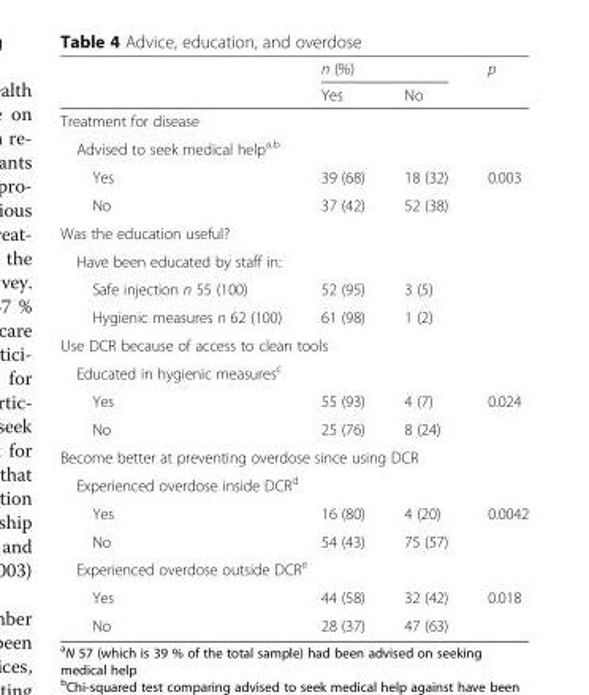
<table><thead><tr><td rowspan="2"></td><td colspan="2">n (%)</td><td rowspan="2">p</td></tr><tr><td>Yes</td><td>No</td></tr></thead><tbody><tr><td colspan="4">Treatment for disease</td></tr><tr><td colspan="4">Advised to seek medical help<sup>a,b</sup></td></tr><tr><td>Yes</td><td>39 (68)</td><td>18 (32)</td><td>0.003</td></tr><tr><td>No</td><td>37 (42)</td><td>52 (38)</td><td></td></tr><tr><td colspan="4">Was the education useful?</td></tr><tr><td colspan="4">Have been educated by staff in:</td></tr><tr><td>Safe injection n 55 (100)</td><td>52 (95)</td><td>3 (5)</td><td></td></tr><tr><td>Hygienic measures n 62 (100)</td><td>61 (98)</td><td>1 (2)</td><td></td></tr><tr><td colspan="4">Use DCR because of access to clean tools</td></tr><tr><td colspan="4">Educated in hygienic measures<sup>c</sup></td></tr><tr><td>Yes</td><td>55 (93)</td><td>4 (7)</td><td>0.024</td></tr><tr><td>No</td><td>25 (76)</td><td>8 (24)</td><td></td></tr><tr><td colspan="4">Become better at preventing overdose since using DCR</td></tr><tr><td colspan="4">Experienced overdose inside DCR<sup>d</sup></td></tr><tr><td>Yes</td><td>16 (80)</td><td>4 (20)</td><td>0.0042</td></tr><tr><td>No</td><td>54 (43)</td><td>75 (57)</td><td></td></tr><tr><td colspan="4">Experienced overdose outside DCR<sup>e</sup></td></tr><tr><td>Yes</td><td>44 (58)</td><td>32 (42)</td><td>0.018</td></tr><tr><td>No</td><td>28 (37)</td><td>47 (63)</td><td></td></tr></tbody></table>